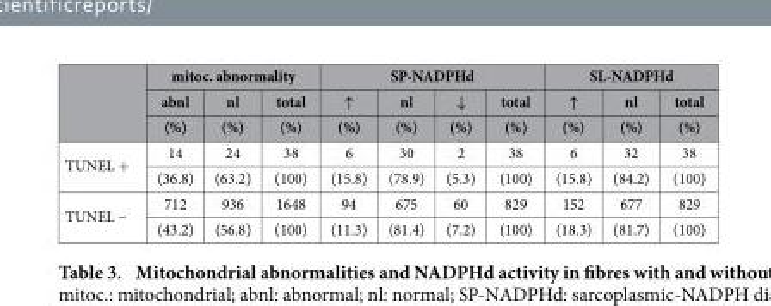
<table><thead><tr><td rowspan="3"></td><td colspan="3">mitoc. abnormality</td><td colspan="4">SP-NADPHd</td><td colspan="3">SL-NADPHd</td></tr><tr><td rowspan="2">abnl (%)</td><td rowspan="2">nl (%)</td><td rowspan="2">total (%)</td><td rowspan="2">↑ (%)</td><td rowspan="2">nl (%)</td><td rowspan="2">↓ (%)</td><td rowspan="2">total (%)</td><td rowspan="2">↑ (%)</td><td rowspan="2">nl (%)</td><td rowspan="2">total (%)</td></tr><tr></tr></thead><tbody><tr><td rowspan="2">TUNEL +</td><td>14</td><td>24</td><td>38</td><td>6</td><td>30</td><td>2</td><td>38</td><td>6</td><td>32</td><td>38</td></tr><tr><td>(36.8)</td><td>(63.2)</td><td>(100)</td><td>(15.8)</td><td>(78.9)</td><td>(5.3)</td><td>(100)</td><td>(15.8)</td><td>(84.2)</td><td>(100)</td></tr><tr><td rowspan="2">TUNEL −</td><td>712</td><td>936</td><td>1648</td><td>94</td><td>675</td><td>60</td><td>829</td><td>152</td><td>677</td><td>829</td></tr><tr><td>(43.2)</td><td>(56.8)</td><td>(100)</td><td>(11.3)</td><td>(81.4)</td><td>(7.2)</td><td>(100)</td><td>(18.3)</td><td>(81.7)</td><td>(100)</td></tr></tbody></table>